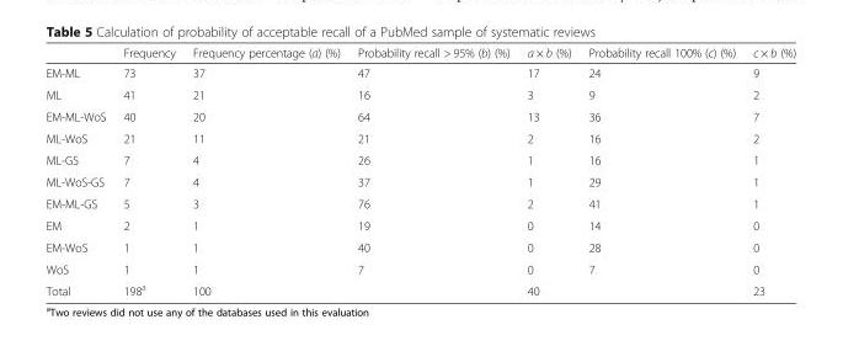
<table><thead><tr><td></td><td>Frequency</td><td>Frequency percentage (a) (%)</td><td>Probability recall &gt; 95% (b) (%)</td><td>a × b (%)</td><td>Probability recall 100% (c) (%)</td><td>c × b (%)</td></tr></thead><tbody><tr><td>EM-ML</td><td>73</td><td>37</td><td>47</td><td>17</td><td>24</td><td>9</td></tr><tr><td>ML</td><td>41</td><td>21</td><td>16</td><td>3</td><td>9</td><td>2</td></tr><tr><td>EM-ML-WoS</td><td>40</td><td>20</td><td>64</td><td>13</td><td>36</td><td>7</td></tr><tr><td>ML-WoS</td><td>21</td><td>11</td><td>21</td><td>2</td><td>16</td><td>2</td></tr><tr><td>ML-GS</td><td>7</td><td>4</td><td>26</td><td>1</td><td>16</td><td>1</td></tr><tr><td>ML-WoS-GS</td><td>7</td><td>4</td><td>37</td><td>1</td><td>29</td><td>1</td></tr><tr><td>EM-ML-GS</td><td>5</td><td>3</td><td>76</td><td>2</td><td>41</td><td>1</td></tr><tr><td>EM</td><td>2</td><td>1</td><td>19</td><td>0</td><td>14</td><td>0</td></tr><tr><td>EM-WoS</td><td>1</td><td>1</td><td>40</td><td>0</td><td>28</td><td>0</td></tr><tr><td>WoS</td><td>1</td><td>1</td><td>7</td><td>0</td><td>7</td><td>0</td></tr><tr><td>Total</td><td>198<sup>a</sup></td><td>100</td><td></td><td>40</td><td></td><td>23</td></tr></tbody></table>